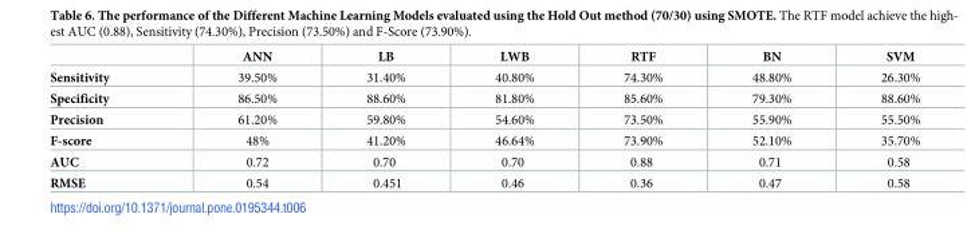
<table><thead><tr><td></td><td>ANN</td><td>LB</td><td>LWB</td><td>RTF</td><td>BN</td><td>SVM</td></tr></thead><tbody><tr><td>Sensitivity</td><td>39.50%</td><td>31.40%</td><td>40.80%</td><td>74.30%</td><td>48.80%</td><td>26.30%</td></tr><tr><td>Specificity</td><td>86.50%</td><td>88.60%</td><td>81.80%</td><td>85.60%</td><td>79.30%</td><td>88.60%</td></tr><tr><td>Precision</td><td>61.20%</td><td>59.80%</td><td>54.60%</td><td>73.50%</td><td>55.90%</td><td>55.50%</td></tr><tr><td>F-score</td><td>48%</td><td>41.20%</td><td>46.64%</td><td>73.90%</td><td>52.10%</td><td>35.70%</td></tr><tr><td>AUC</td><td>0.72</td><td>0.70</td><td>0.70</td><td>0.88</td><td>0.71</td><td>0.58</td></tr><tr><td>RMSE</td><td>0.54</td><td>0.451</td><td>0.46</td><td>0.36</td><td>0.47</td><td>0.58</td></tr></tbody></table>